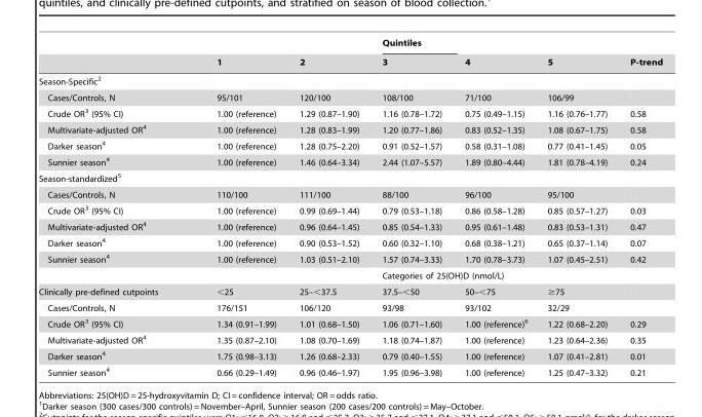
<table><thead><tr><td rowspan="2"></td><td rowspan="2">1</td><td rowspan="2">2</td><td rowspan="2">Quintiles 3</td><td rowspan="2">4</td><td rowspan="2">5</td><td rowspan="2">P-trend</td></tr><tr></tr></thead><tbody><tr><td colspan="7">Season-Specific<sup>2</sup></td></tr><tr><td>Cases/Controls, N</td><td>95/101</td><td>120/100</td><td>108/100</td><td>71/100</td><td>106/99</td><td></td></tr><tr><td>Crude OR<sup>3</sup> (95% CI)</td><td>1.00 (reference)</td><td>1.29 (0.87–1.90)</td><td>1.16 (0.78–1.72)</td><td>0.75 (0.49–1.15)</td><td>1.16 (0.76–1.77)</td><td>0.58</td></tr><tr><td>Multivariate-adjusted OR<sup>4</sup></td><td>1.00 (reference)</td><td>1.28 (0.83–1.99)</td><td>1.20 (0.77–1.86)</td><td>0.83 (0.52–1.35)</td><td>1.08 (0.67–1.75)</td><td>0.58</td></tr><tr><td>Darker season<sup>4</sup></td><td>1.00 (reference)</td><td>1.28 (0.75–2.20)</td><td>0.91 (0.52–1.57)</td><td>0.58 (0.31–1.08)</td><td>0.77 (0.41–1.45)</td><td>0.05</td></tr><tr><td>Sunnier season<sup>4</sup></td><td>1.00 (reference)</td><td>1.46 (0.64–3.34)</td><td>2.44 (1.07–5.57)</td><td>1.89 (0.80–4.44)</td><td>1.81 (0.78–4.19)</td><td>0.24</td></tr><tr><td colspan="7">Season-standardized<sup>5</sup></td></tr><tr><td>Cases/Controls, N</td><td>110/100</td><td>111/100</td><td>88/100</td><td>96/100</td><td>95/100</td><td></td></tr><tr><td>Crude OR<sup>3</sup> (95% CI)</td><td>1.00 (reference)</td><td>0.99 (0.69–1.44)</td><td>0.79 (0.53–1.18)</td><td>0.86 (0.58–1.28)</td><td>0.85 (0.57–1.27)</td><td>0.03</td></tr><tr><td>Multivariate-adjusted OR<sup>4</sup></td><td>1.00 (reference)</td><td>0.96 (0.64–1.45)</td><td>0.85 (0.54–1.33)</td><td>0.95 (0.61–1.48)</td><td>0.83 (0.53–1.31)</td><td>0.47</td></tr><tr><td>Darker season<sup>4</sup></td><td>1.00 (reference)</td><td>0.90 (0.53–1.52)</td><td>0.60 (0.32–1.10)</td><td>0.68 (0.38–1.21)</td><td>0.65 (0.37–1.14)</td><td>0.07</td></tr><tr><td rowspan="2">Sunnier season<sup>4</sup></td><td>1.00 (reference)</td><td>1.03 (0.51–2.10)</td><td>1.57 (0.74–3.33)</td><td>1.70 (0.78–3.73)</td><td>1.07 (0.45–2.51)</td><td>0.42</td></tr><tr><td></td><td></td><td colspan="2">Categories of 25(OH)D (nmol/L)</td><td></td><td></td></tr><tr><td>Clinically pre-defined cutpoints</td><td>&lt;25</td><td>25–&lt;37.5</td><td>37.5–&lt;50</td><td>50–&lt;75</td><td>≥75</td><td></td></tr><tr><td>Cases/Controls, N</td><td>176/151</td><td>106/120</td><td>93/98</td><td>93/102</td><td>32/29</td><td></td></tr><tr><td>Crude OR<sup>3</sup> (95% CI)</td><td>1.34 (0.91–1.99)</td><td>1.01 (0.68–1.50)</td><td>1.06 (0.71–1.60)</td><td>1.00 (reference)<sup>6</sup></td><td>1.22 (0.68–2.20)</td><td>0.29</td></tr><tr><td>Multivariate-adjusted OR<sup>4</sup></td><td>1.35 (0.87–2.10)</td><td>1.08 (0.70–1.69)</td><td>1.18 (0.74–1.87)</td><td>1.00 (reference)</td><td>1.23 (0.64–2.36)</td><td>0.35</td></tr><tr><td>Darker season<sup>4</sup></td><td>1.75 (0.98–3.13)</td><td>1.26 (0.68–2.33)</td><td>0.79 (0.40–1.55)</td><td>1.00 (reference)</td><td>1.07 (0.41–2.81)</td><td>0.01</td></tr><tr><td>Sunnier season<sup>4</sup></td><td>0.66 (0.29–1.49)</td><td>0.96 (0.46–1.97)</td><td>1.95 (0.96–3.98)</td><td>1.00 (reference)</td><td>1.25 (0.47–3.32)</td><td>0.21</td></tr></tbody></table>